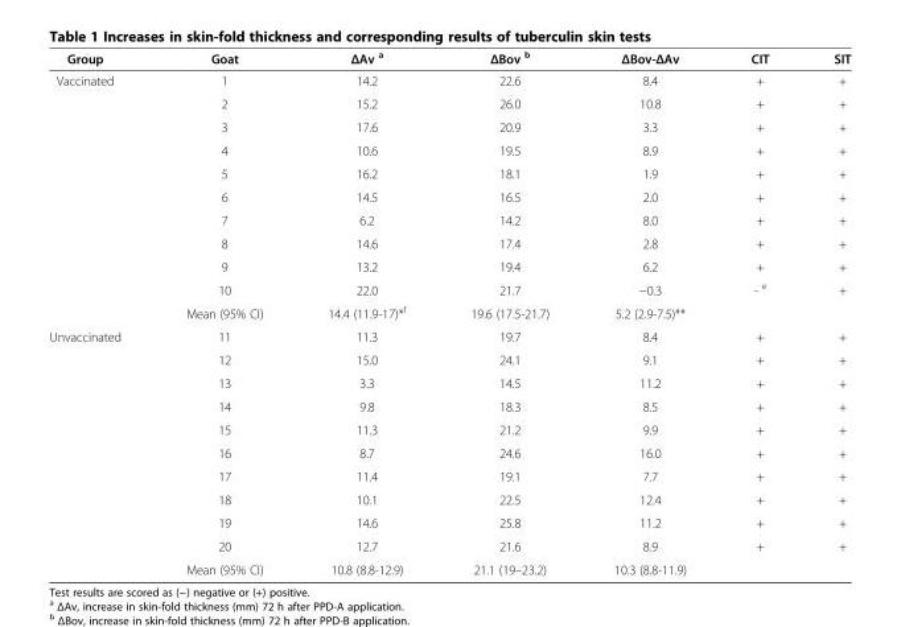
<table><thead><tr><td>Group</td><td>Goat</td><td>ΔAv <sup>a</sup></td><td>ΔBov <sup>b</sup></td><td>ΔBov-ΔAv</td><td>CIT</td><td>SIT</td></tr></thead><tbody><tr><td rowspan="11">Vaccinated</td><td>1</td><td>14.2</td><td>22.6</td><td>8.4</td><td>+</td><td>+</td></tr><tr><td>2</td><td>15.2</td><td>26.0</td><td>10.8</td><td>+</td><td>+</td></tr><tr><td>3</td><td>17.6</td><td>20.9</td><td>3.3</td><td>+</td><td>+</td></tr><tr><td>4</td><td>10.6</td><td>19.5</td><td>8.9</td><td>+</td><td>+</td></tr><tr><td>5</td><td>16.2</td><td>18.1</td><td>1.9</td><td>+</td><td>+</td></tr><tr><td>6</td><td>14.5</td><td>16.5</td><td>2.0</td><td>+</td><td>+</td></tr><tr><td>7</td><td>6.2</td><td>14.2</td><td>8.0</td><td>+</td><td>+</td></tr><tr><td>8</td><td>14.6</td><td>17.4</td><td>2.8</td><td>+</td><td>+</td></tr><tr><td>9</td><td>13.2</td><td>19.4</td><td>6.2</td><td>+</td><td>+</td></tr><tr><td>10</td><td>22.0</td><td>21.7</td><td>−0.3</td><td>- <sup>e</sup></td><td>+</td></tr><tr><td>Mean (95% CI)</td><td>14.4 (11.9-17)*<sup>f</sup></td><td>19.6 (17.5-21.7)</td><td>5.2 (2.9-7.5)**</td><td></td><td></td></tr><tr><td rowspan="11">Unvaccinated</td><td>11</td><td>11.3</td><td>19.7</td><td>8.4</td><td>+</td><td>+</td></tr><tr><td>12</td><td>15.0</td><td>24.1</td><td>9.1</td><td>+</td><td>+</td></tr><tr><td>13</td><td>3.3</td><td>14.5</td><td>11.2</td><td>+</td><td>+</td></tr><tr><td>14</td><td>9.8</td><td>18.3</td><td>8.5</td><td>+</td><td>+</td></tr><tr><td>15</td><td>11.3</td><td>21.2</td><td>9.9</td><td>+</td><td>+</td></tr><tr><td>16</td><td>8.7</td><td>24.6</td><td>16.0</td><td>+</td><td>+</td></tr><tr><td>17</td><td>11.4</td><td>19.1</td><td>7.7</td><td>+</td><td>+</td></tr><tr><td>18</td><td>10.1</td><td>22.5</td><td>12.4</td><td>+</td><td>+</td></tr><tr><td>19</td><td>14.6</td><td>25.8</td><td>11.2</td><td>+</td><td>+</td></tr><tr><td>20</td><td>12.7</td><td>21.6</td><td>8.9</td><td>+</td><td>+</td></tr><tr><td>Mean (95% CI)</td><td>10.8 (8.8-12.9)</td><td>21.1 (19–23.2)</td><td>10.3 (8.8-11.9)</td><td></td><td></td></tr></tbody></table>